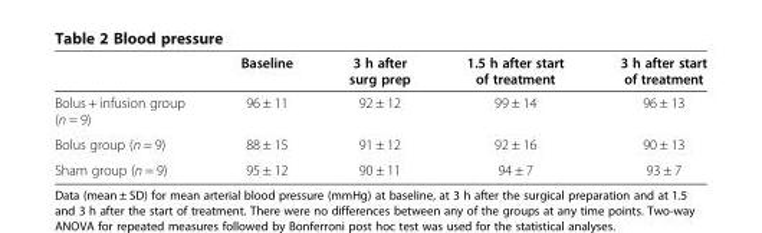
<table><thead><tr><td></td><td>Baseline</td><td>3 h after surg prep</td><td>1.5 h after start of treatment</td><td>3 h after start of treatment</td></tr></thead><tbody><tr><td>Bolus + infusion group (n = 9)</td><td>96 ± 11</td><td>92 ± 12</td><td>99 ± 14</td><td>96 ± 13</td></tr><tr><td>Bolus group (n = 9)</td><td>88 ± 15</td><td>91 ± 12</td><td>92 ± 16</td><td>90 ± 13</td></tr><tr><td>Sham group (n = 9)</td><td>95 ± 12</td><td>90 ± 11</td><td>94 ± 7</td><td>93 ± 7</td></tr></tbody></table>